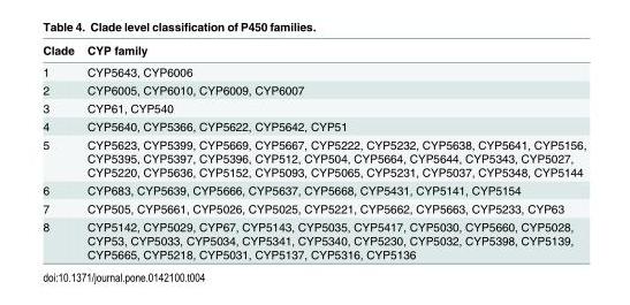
<table><thead><tr><td>Clade</td><td>CYP family</td></tr></thead><tbody><tr><td>1</td><td>CYP5643, CYP6006</td></tr><tr><td>2</td><td>CYP6005, CYP6010, CYP6009, CYP6007</td></tr><tr><td>3</td><td>CYP61, CYP540</td></tr><tr><td>4</td><td>CYP5640, CYP5366, CYP5622, CYP5642, CYP51</td></tr><tr><td>5</td><td>CYP5623, CYP5399, CYP5669, CYP5667, CYP5222, CYP5232, CYP5638, CYP5641, CYP5156, CYP5395, CYP5397, CYP5396, CYP512, CYP504, CYP5664, CYP5644, CYP5343, CYP5027, CYP5220, CYP5636, CYP5152, CYP5093, CYP5065, CYP5231, CYP5037, CYP5348, CYP5144</td></tr><tr><td>6</td><td>CYP683, CYP5639, CYP5666, CYP5637, CYP5668, CYP5431, CYP5141, CYP5154</td></tr><tr><td>7</td><td>CYP505, CYP5661, CYP5026, CYP5025, CYP5221, CYP5662, CYP5663, CYP5233, CYP63</td></tr><tr><td>8</td><td>CYP5142, CYP5029, CYP67, CYP5143, CYP5035, CYP5417, CYP5030, CYP5660, CYP5028, CYP53, CYP5033, CYP5034, CYP5341, CYP5340, CYP5230, CYP5032, CYP5398, CYP5139, CYP5665, CYP5218, CYP5031, CYP5137, CYP5316, CYP5136</td></tr></tbody></table>